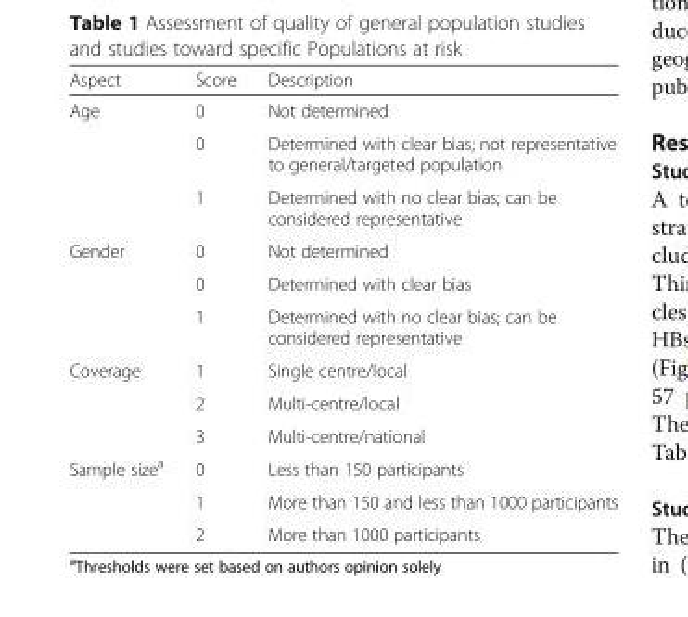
<table><thead><tr><td>Aspect</td><td>Score</td><td>Description</td></tr></thead><tbody><tr><td rowspan="3">Age</td><td>0</td><td>Not determined</td></tr><tr><td>0</td><td>Determined with clear bias; not representative to general/targeted population</td></tr><tr><td>1</td><td>Determined with no clear bias; can be considered representative</td></tr><tr><td rowspan="3">Gender</td><td>0</td><td>Not determined</td></tr><tr><td>0</td><td>Determined with clear bias</td></tr><tr><td>1</td><td>Determined with no clear bias; can be considered representative</td></tr><tr><td rowspan="3">Coverage</td><td>1</td><td>Single centre/local</td></tr><tr><td>2</td><td>Multi-centre/local</td></tr><tr><td>3</td><td>Multi-centre/national</td></tr><tr><td rowspan="3">Sample size<sup>a</sup></td><td>0</td><td>Less than 150 participants</td></tr><tr><td>1</td><td>More than 150 and less than 1000 participants</td></tr><tr><td>2</td><td>More than 1000 participants</td></tr></tbody></table>